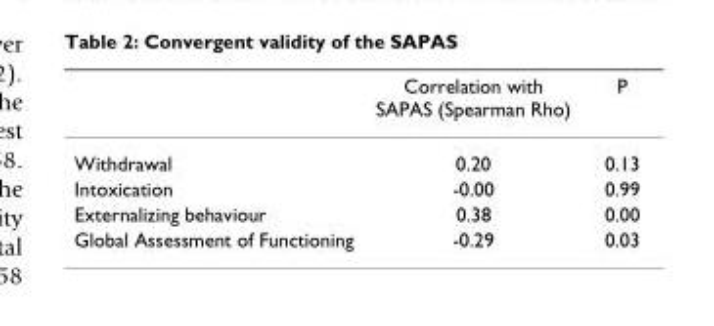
<table><thead><tr><td></td><td>Correlation with SAPAS (Spearman Rho)</td><td>P</td></tr></thead><tbody><tr><td>Withdrawal</td><td>0.20</td><td>0.13</td></tr><tr><td>Intoxication</td><td>-0.00</td><td>0.99</td></tr><tr><td>Externalizing behaviour</td><td>0.38</td><td>0.00</td></tr><tr><td>Global Assessment of Functioning</td><td>-0.29</td><td>0.03</td></tr></tbody></table>